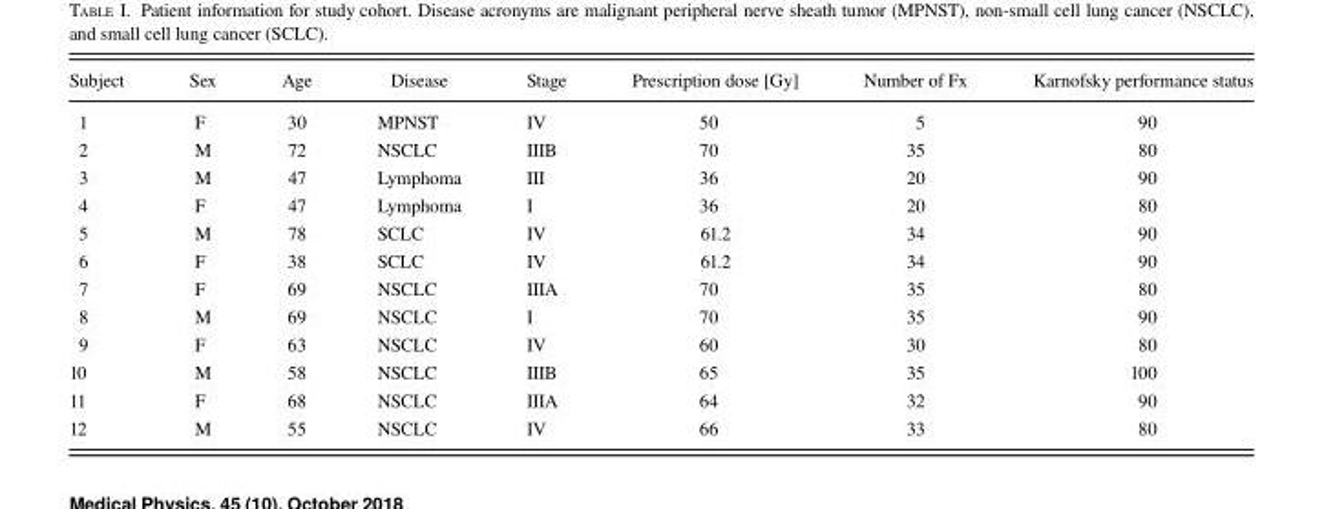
<table><thead><tr><td>Subject</td><td>Sex</td><td>Age</td><td>Disease</td><td>Stage</td><td>Prescription dose [Gy]</td><td>Number of Fx</td><td>Karnofsky performance status</td></tr></thead><tbody><tr><td>1</td><td>F</td><td>30</td><td>MPNST</td><td>IV</td><td>50</td><td>5</td><td>90</td></tr><tr><td>2</td><td>M</td><td>72</td><td>NSCLC</td><td>IIIB</td><td>70</td><td>35</td><td>80</td></tr><tr><td>3</td><td>M</td><td>47</td><td>Lymphoma</td><td>III</td><td>36</td><td>20</td><td>90</td></tr><tr><td>4</td><td>F</td><td>47</td><td>Lymphoma</td><td>I</td><td>36</td><td>20</td><td>80</td></tr><tr><td>5</td><td>M</td><td>78</td><td>SCLC</td><td>IV</td><td>61.2</td><td>34</td><td>90</td></tr><tr><td>6</td><td>F</td><td>38</td><td>SCLC</td><td>IV</td><td>61.2</td><td>34</td><td>90</td></tr><tr><td>7</td><td>F</td><td>69</td><td>NSCLC</td><td>IIIA</td><td>70</td><td>35</td><td>80</td></tr><tr><td>8</td><td>M</td><td>69</td><td>NSCLC</td><td>I</td><td>70</td><td>35</td><td>90</td></tr><tr><td>9</td><td>F</td><td>63</td><td>NSCLC</td><td>IV</td><td>60</td><td>30</td><td>80</td></tr><tr><td>10</td><td>M</td><td>58</td><td>NSCLC</td><td>IIIB</td><td>65</td><td>35</td><td>100</td></tr><tr><td>11</td><td>F</td><td>68</td><td>NSCLC</td><td>IIIA</td><td>64</td><td>32</td><td>90</td></tr><tr><td>12</td><td>M</td><td>55</td><td>NSCLC</td><td>IV</td><td>66</td><td>33</td><td>80</td></tr></tbody></table>